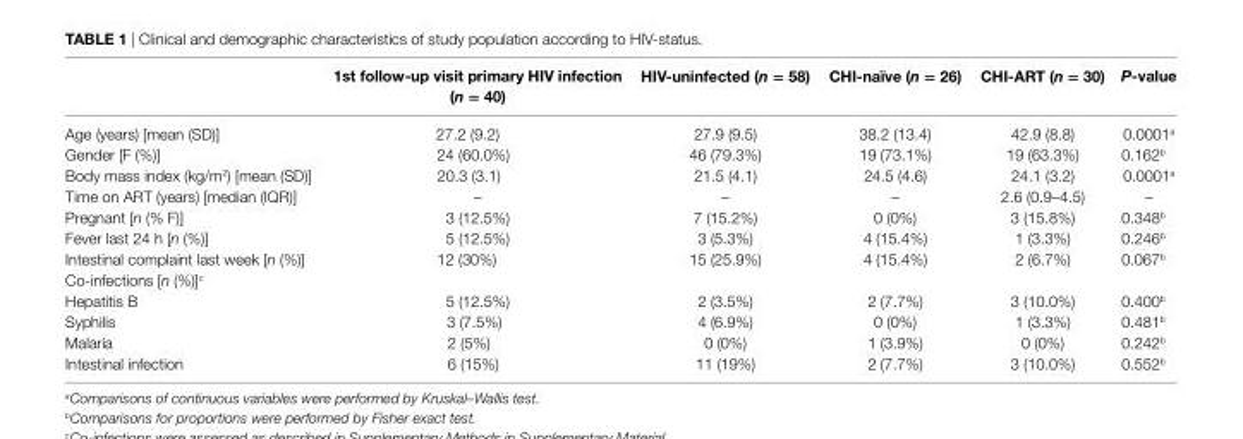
<table><thead><tr><td></td><td>1st follow-up visit primary hiV infection (n = 40)</td><td>hiV-uninfected (n = 58)</td><td>chi-naïve (n = 26)</td><td>chi-arT (n = 30)</td><td>P-value</td></tr></thead><tbody><tr><td>Age (years) [mean (SD)]</td><td>27.2 (9.2)</td><td>27.9 (9.5)</td><td>38.2 (13.4)</td><td>42.9 (8.8)</td><td>0.0001<sup>a</sup></td></tr><tr><td>Gender [F (%)]</td><td>24 (60.0%)</td><td>46 (79.3%)</td><td>19 (73.1%)</td><td>19 (63.3%)</td><td>0.162<sup>b</sup></td></tr><tr><td>Body mass index (kg/m<sup>2</sup>) [mean (SD)]</td><td>20.3 (3.1)</td><td>21.5 (4.1)</td><td>24.5 (4.6)</td><td>24.1 (3.2)</td><td>0.0001<sup>a</sup></td></tr><tr><td>Time on ART (years) [median (IQR)]</td><td>–</td><td>–</td><td>–</td><td>2.6 (0.9–4.5)</td><td>–</td></tr><tr><td>Pregnant [n (% F)]</td><td>3 (12.5%)</td><td>7 (15.2%)</td><td>0 (0%)</td><td>3 (15.8%)</td><td>0.348<sup>b</sup></td></tr><tr><td>Fever last 24 h [n (%)]</td><td>5 (12.5%)</td><td>3 (5.3%)</td><td>4 (15.4%)</td><td>1 (3.3%)</td><td>0.246<sup>b</sup></td></tr><tr><td>Intestinal complaint last week [n (%)]</td><td>12 (30%)</td><td>15 (25.9%)</td><td>4 (15.4%)</td><td>2 (6.7%)</td><td>0.067<sup>b</sup></td></tr><tr><td colspan="6">Co-infections [n (%)]<sup>c</sup></td></tr><tr><td>Hepatitis B</td><td>5 (12.5%)</td><td>2 (3.5%)</td><td>2 (7.7%)</td><td>3 (10.0%)</td><td>0.400<sup>b</sup></td></tr><tr><td>Syphilis</td><td>3 (7.5%)</td><td>4 (6.9%)</td><td>0 (0%)</td><td>1 (3.3%)</td><td>0.481<sup>b</sup></td></tr><tr><td>Malaria</td><td>2 (5%)</td><td>0 (0%)</td><td>1 (3.9%)</td><td>0 (0%)</td><td>0.242<sup>b</sup></td></tr><tr><td>Intestinal infection</td><td>6 (15%)</td><td>11 (19%)</td><td>2 (7.7%)</td><td>3 (10.0%)</td><td>0.552<sup>b</sup></td></tr></tbody></table>